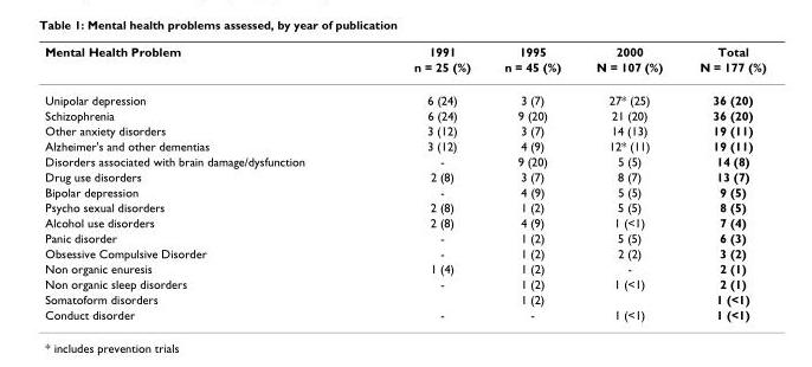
<table><thead><tr><td rowspan="2">Mental Health Problem</td><td rowspan="2">1991 n = 25 (%)</td><td rowspan="2">1995 n = 45 (%)</td><td rowspan="2">2000 N = 107 (%)</td><td rowspan="2">Total N = 177 (%)</td></tr><tr></tr></thead><tbody><tr><td>Unipolar depression</td><td>6 (24)</td><td>3 (7)</td><td>27* (25)</td><td>36 (20)</td></tr><tr><td>Schizophrenia</td><td>6 (24)</td><td>9 (20)</td><td>21 (20)</td><td>36 (20)</td></tr><tr><td>Other anxiety disorders</td><td>3 (12)</td><td>3 (7)</td><td>14 (13)</td><td>19 (11)</td></tr><tr><td>Alzheimer&#x27;s and other dementias</td><td>3 (12)</td><td>4 (9)</td><td>12* (11)</td><td>19 (11)</td></tr><tr><td>Disorders associated with brain damage/dysfunction</td><td>-</td><td>9 (20)</td><td>5 (5)</td><td>14 (8)</td></tr><tr><td>Drug use disorders</td><td>2 (8)</td><td>3 (7)</td><td>8 (7)</td><td>13 (7)</td></tr><tr><td>Bipolar depression</td><td>-</td><td>4 (9)</td><td>5 (5)</td><td>9 (5)</td></tr><tr><td>Psycho sexual disorders</td><td>2 (8)</td><td>1 (2)</td><td>5 (5)</td><td>8 (5)</td></tr><tr><td>Alcohol use disorders</td><td>2 (8)</td><td>4 (9)</td><td>1 (&lt;1)</td><td>7 (4)</td></tr><tr><td>Panic disorder</td><td>-</td><td>1 (2)</td><td>5 (5)</td><td>6 (3)</td></tr><tr><td>Obsessive Compulsive Disorder</td><td>-</td><td>1 (2)</td><td>2 (2)</td><td>3 (2)</td></tr><tr><td>Non organic enuresis</td><td>1 (4)</td><td>1 (2)</td><td>-</td><td>2 (1)</td></tr><tr><td>Non organic sleep disorders</td><td>-</td><td>1 (2)</td><td>1 (&lt;1)</td><td>2 (1)</td></tr><tr><td>Somatoform disorders</td><td></td><td>1 (2)</td><td></td><td>1 (&lt;1)</td></tr><tr><td>Conduct disorder</td><td>-</td><td>-</td><td>1 (&lt;1)</td><td>1 (&lt;1)</td></tr></tbody></table>